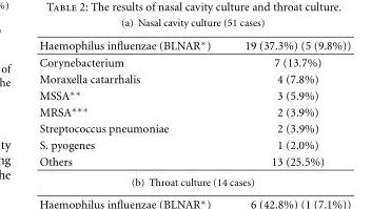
<table><thead><tr><td>Haemophilus influenzae (BLNAR∗)</td><td>19 (37.3%) (5 (9.8%))</td></tr></thead><tbody><tr><td>Corynebacterium</td><td>7 (13.7%)</td></tr><tr><td>Moraxella catarrhalis</td><td>4 (7.8%)</td></tr><tr><td>MSSA∗∗</td><td>3 (5.9%)</td></tr><tr><td>MRSA∗∗∗</td><td>2 (3.9%)</td></tr><tr><td>Streptococcus pneumoniae</td><td>2 (3.9%)</td></tr><tr><td>S. pyogenes</td><td>1 (2.0%)</td></tr><tr><td>Others</td><td>13 (25.5%)</td></tr></tbody></table>